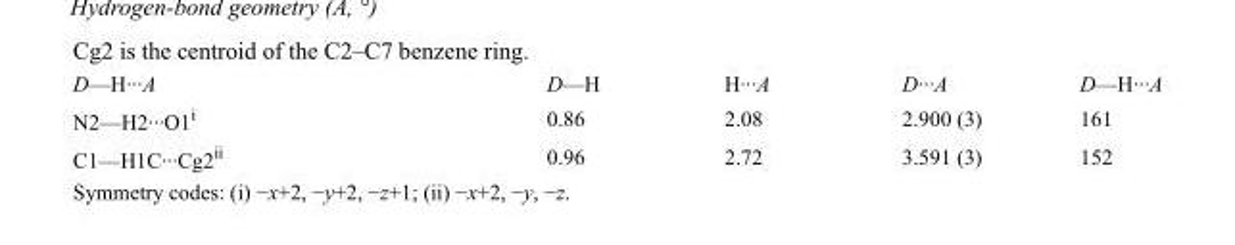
<table><tbody><tr><td>D—H···A</td><td>D—H</td><td>H···A</td><td>D···A</td><td>D—H···A</td></tr><tr><td>N2—H2···O1<sup>i</sup></td><td>0.86</td><td>2.08</td><td>2.900 (3)</td><td>161</td></tr><tr><td>C1—H1C···Cg2<sup>ii</sup></td><td>0.96</td><td>2.72</td><td>3.591 (3)</td><td>152</td></tr></tbody></table>